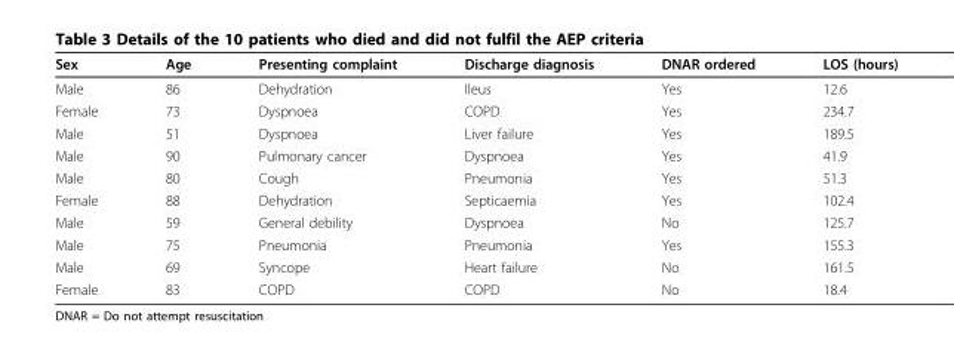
<table><thead><tr><td>Sex</td><td>Age</td><td>Presenting complaint</td><td>Discharge diagnosis</td><td>DNAR ordered</td><td>LOS (hours)</td></tr></thead><tbody><tr><td>Male</td><td>86</td><td>Dehydration</td><td>Ileus</td><td>Yes</td><td>12.6</td></tr><tr><td>Female</td><td>73</td><td>Dyspnoea</td><td>COPD</td><td>Yes</td><td>234.7</td></tr><tr><td>Male</td><td>51</td><td>Dyspnoea</td><td>Liver failure</td><td>Yes</td><td>189.5</td></tr><tr><td>Male</td><td>90</td><td>Pulmonary cancer</td><td>Dyspnoea</td><td>Yes</td><td>41.9</td></tr><tr><td>Male</td><td>80</td><td>Cough</td><td>Pneumonia</td><td>Yes</td><td>51.3</td></tr><tr><td>Female</td><td>88</td><td>Dehydration</td><td>Septicaemia</td><td>Yes</td><td>102.4</td></tr><tr><td>Male</td><td>59</td><td>General debility</td><td>Dyspnoea</td><td>No</td><td>125.7</td></tr><tr><td>Male</td><td>75</td><td>Pneumonia</td><td>Pneumonia</td><td>Yes</td><td>155.3</td></tr><tr><td>Male</td><td>69</td><td>Syncope</td><td>Heart failure</td><td>No</td><td>161.5</td></tr><tr><td>Female</td><td>83</td><td>COPD</td><td>COPD</td><td>No</td><td>18.4</td></tr></tbody></table>